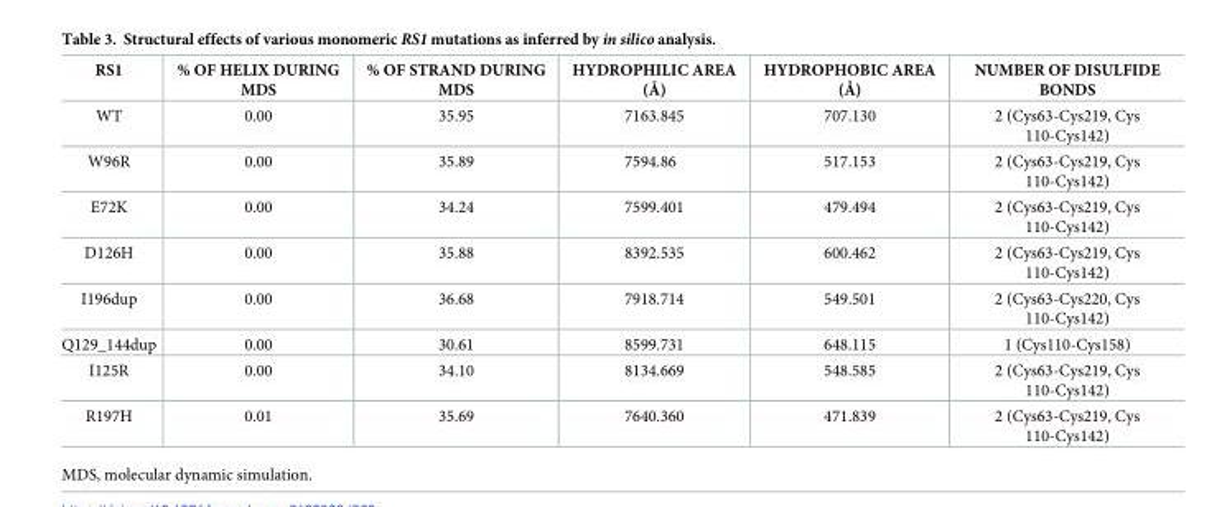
<table><thead><tr><td>RS1</td><td>% OF HELIX DURING MDS</td><td>% OF STRAND DURING MDS</td><td>HYDROPHILIC AREA (Å)</td><td>HYDROPHOBIC AREA (Å)</td><td>NUMBER OF DISULFIDE BONDS</td></tr></thead><tbody><tr><td>WT</td><td>0.00</td><td>35.95</td><td>7163.845</td><td>707.130</td><td>2 (Cys63-Cys219, Cys 110-Cys142)</td></tr><tr><td>W96R</td><td>0.00</td><td>35.89</td><td>7594.86</td><td>517.153</td><td>2 (Cys63-Cys219, Cys 110-Cys142)</td></tr><tr><td>E72K</td><td>0.00</td><td>34.24</td><td>7599.401</td><td>479.494</td><td>2 (Cys63-Cys219, Cys 110-Cys142)</td></tr><tr><td>D126H</td><td>0.00</td><td>35.88</td><td>8392.535</td><td>600.462</td><td>2 (Cys63-Cys219, Cys 110-Cys142)</td></tr><tr><td>I196dup</td><td>0.00</td><td>36.68</td><td>7918.714</td><td>549.501</td><td>2 (Cys63-Cys220, Cys 110-Cys142)</td></tr><tr><td>Q129_144dup</td><td>0.00</td><td>30.61</td><td>8599.731</td><td>648.115</td><td>1 (Cys110-Cys158)</td></tr><tr><td>I125R</td><td>0.00</td><td>34.10</td><td>8134.669</td><td>548.585</td><td>2 (Cys63-Cys219, Cys 110-Cys142)</td></tr><tr><td>R197H</td><td>0.01</td><td>35.69</td><td>7640.360</td><td>471.839</td><td>2 (Cys63-Cys219, Cys 110-Cys142)</td></tr></tbody></table>